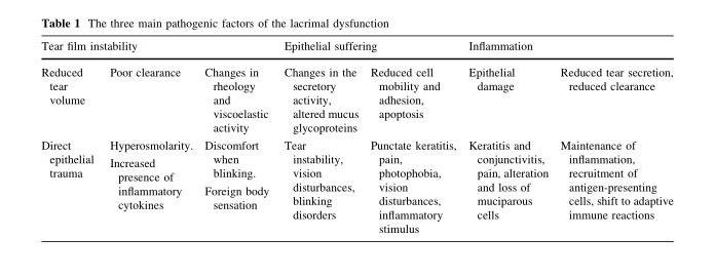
<table><thead><tr><td colspan="3">Tear film instability</td><td colspan="2">Epithelial suffering</td><td colspan="2">Inflammation</td></tr><tr><td>Reduced tear volume</td><td>Poor clearance</td><td>Changes in rheology and viscoelastic activity</td><td>Changes in the secretory activity, altered mucus glycoproteins</td><td>Reduced cell mobility and adhesion, apoptosis</td><td>Epithelial damage</td><td>Reduced tear secretion, reduced clearance</td></tr></thead><tbody><tr><td>Direct epithelial trauma</td><td>Hyperosmolarity. Increased presence of inflammatory cytokines</td><td>Discomfort when blinking. Foreign body sensation</td><td>Tear instability, vision disturbances, blinking disorders</td><td>Punctate keratitis, pain, photophobia, vision disturbances, inflammatory stimulus</td><td>Keratitis and conjunctivitis, pain, alteration and loss of muciparous cells</td><td>Maintenance of inflammation, recruitment of antigen-presenting cells, shift to adaptive immune reactions</td></tr></tbody></table>